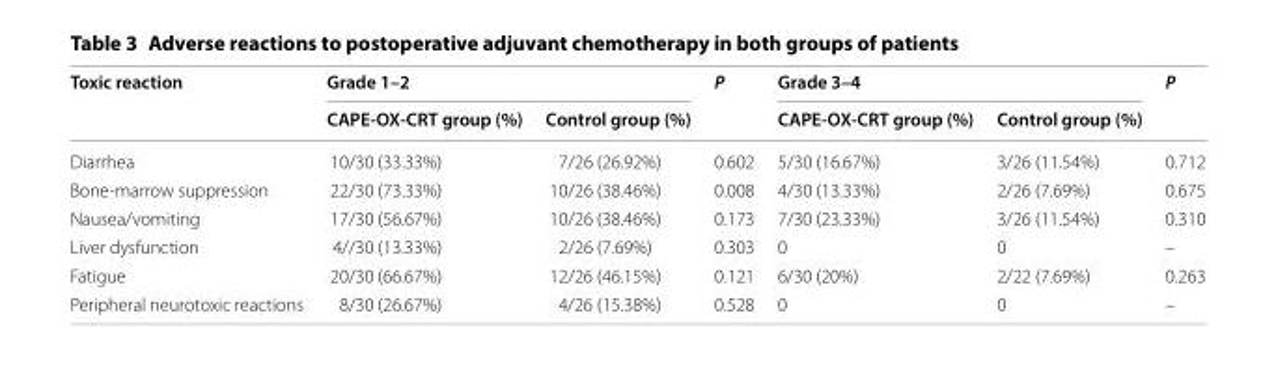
<table><thead><tr><td rowspan="2">Toxic reaction</td><td colspan="2">Grade 1–2</td><td rowspan="2">P</td><td colspan="2">Grade 3–4</td><td rowspan="2">P</td></tr><tr><td>CAPE-OX-CRT group (%)</td><td>Control group (%)</td><td>CAPE-OX-CRT group (%)</td><td>Control group (%)</td></tr></thead><tbody><tr><td>Diarrhea</td><td>10/30 (33.33%)</td><td>7/26 (26.92%)</td><td>0.602</td><td>5/30 (16.67%)</td><td>3/26 (11.54%)</td><td>0.712</td></tr><tr><td>Bone-marrow suppression</td><td>22/30 (73.33%)</td><td>10/26 (38.46%)</td><td>0.008</td><td>4/30 (13.33%)</td><td>2/26 (7.69%)</td><td>0.675</td></tr><tr><td>Nausea/vomiting</td><td>17/30 (56.67%)</td><td>10/26 (38.46%)</td><td>0.173</td><td>7/30 (23.33%)</td><td>3/26 (11.54%)</td><td>0.310</td></tr><tr><td>Liver dysfunction</td><td>4//30 (13.33%)</td><td>2/26 (7.69%)</td><td>0.303</td><td>0</td><td>0</td><td>–</td></tr><tr><td>Fatigue</td><td>20/30 (66.67%)</td><td>12/26 (46.15%)</td><td>0.121</td><td>6/30 (20%)</td><td>2/22 (7.69%)</td><td>0.263</td></tr><tr><td>Peripheral neurotoxic reactions</td><td>8/30 (26.67%)</td><td>4/26 (15.38%)</td><td>0.528</td><td>0</td><td>0</td><td>–</td></tr></tbody></table>